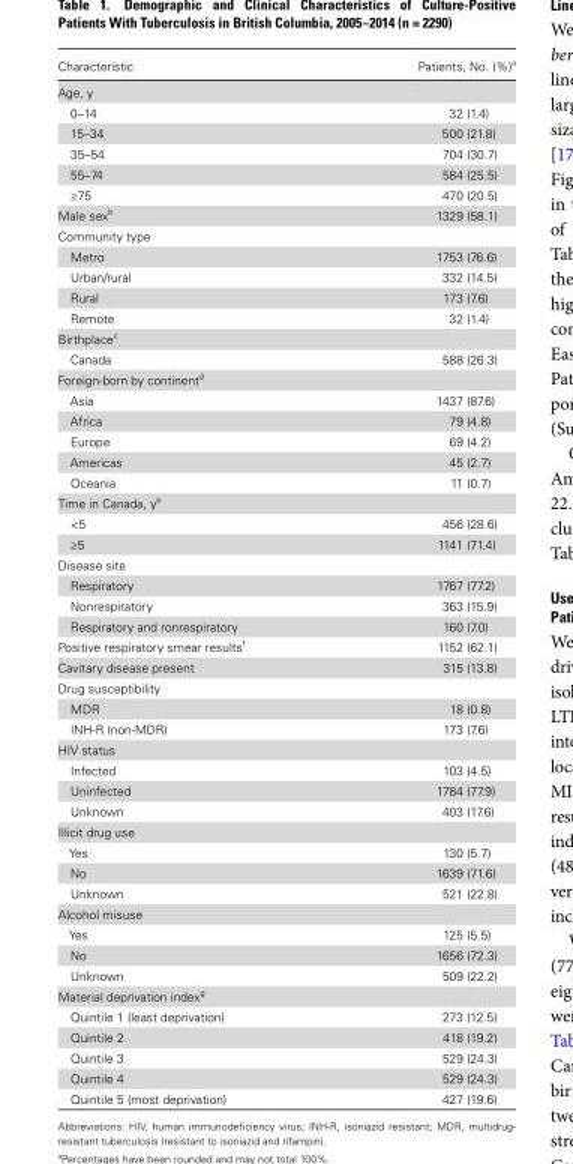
<table><thead><tr><td>Characteristic</td><td>Patients, No. (%)<sup>a</sup></td></tr></thead><tbody><tr><td colspan="2">Age, y</td></tr><tr><td>0–14</td><td>32 (1.4)</td></tr><tr><td>15–34</td><td>500 (21.8)</td></tr><tr><td>35–54</td><td>704 (30.7)</td></tr><tr><td>55–74</td><td>584 (25.5)</td></tr><tr><td>≥75</td><td>470 (20.5)</td></tr><tr><td>Male sex<sup>b</sup></td><td>1329 (58.1)</td></tr><tr><td colspan="2">Community type</td></tr><tr><td>Metro</td><td>1753 (76.6)</td></tr><tr><td>Urban/rural</td><td>332 (14.5)</td></tr><tr><td>Rural</td><td>173 (7.6)</td></tr><tr><td>Remote</td><td>32 (1.4)</td></tr><tr><td colspan="2">Birthplace<sup>c</sup></td></tr><tr><td>Canada</td><td>588 (26.3)</td></tr><tr><td colspan="2">Foreign-born by continent<sup>d</sup></td></tr><tr><td>Asia</td><td>1437 (87.6)</td></tr><tr><td>Africa</td><td>79 (4.8)</td></tr><tr><td>Europe</td><td>69 (4.2)</td></tr><tr><td>Americas</td><td>45 (2.7)</td></tr><tr><td>Oceania</td><td>11 (0.7)</td></tr><tr><td colspan="2">Time in Canada, y<sup>e</sup></td></tr><tr><td>&lt;5</td><td>456 (28.6)</td></tr><tr><td>≥5</td><td>1141 (71.4)</td></tr><tr><td colspan="2">Disease site</td></tr><tr><td>Respiratory</td><td>1767 (77.2)</td></tr><tr><td>Nonrespiratory</td><td>363 (15.9)</td></tr><tr><td>Respiratory and ronrespiratory</td><td>160 (7.0)</td></tr><tr><td>Positive respiratory smear results<sup>f</sup></td><td>1152 (62.1)</td></tr><tr><td>Cavitary disease present</td><td>315 (13.8)</td></tr><tr><td colspan="2">Drug susceptibility</td></tr><tr><td>MDR</td><td>18 (0.8)</td></tr><tr><td>INH-R (non-MDR)</td><td>173 (7.6)</td></tr><tr><td colspan="2">HIV status</td></tr><tr><td>Infected</td><td>103 (4.5)</td></tr><tr><td>Uninfected</td><td>1784 (77.9)</td></tr><tr><td>Unknown</td><td>403 (17.6)</td></tr><tr><td colspan="2">Illicit drug use</td></tr><tr><td>Yes</td><td>130 (5.7)</td></tr><tr><td>No</td><td>1639 (71.6)</td></tr><tr><td>Unknown</td><td>521 (22.8)</td></tr><tr><td colspan="2">Alcohol misuse</td></tr><tr><td>Yes</td><td>125 (5.5)</td></tr><tr><td>No</td><td>1656 (72.3)</td></tr><tr><td>Unknown</td><td>509 (22.2)</td></tr><tr><td colspan="2">Material deprivation index<sup>g</sup></td></tr><tr><td>Quintile 1 (least deprivation)</td><td>273 (12.5)</td></tr><tr><td>Quintile 2</td><td>418 (19.2)</td></tr><tr><td>Quintile 3</td><td>529 (24.3)</td></tr><tr><td>Quintile 4</td><td>529 (24.3)</td></tr><tr><td>Quintile 5 (most deprivation)</td><td>427 (19.6)</td></tr></tbody></table>